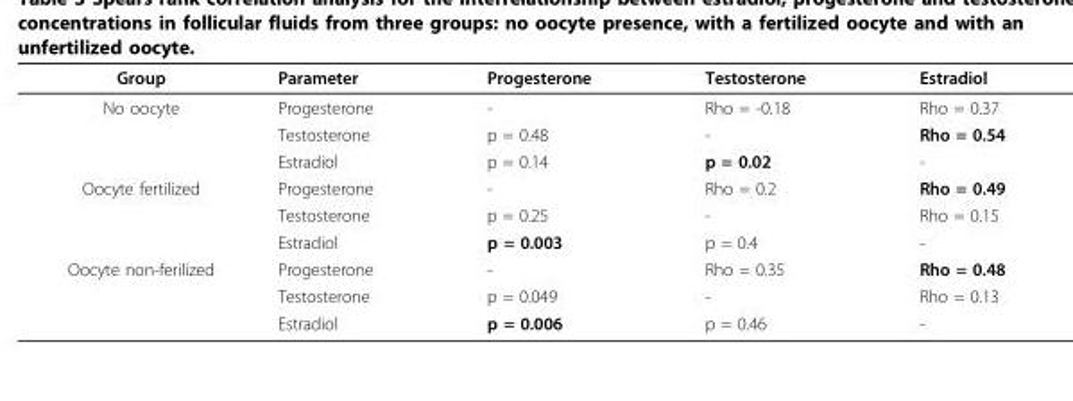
<table><thead><tr><td>Group</td><td>Parameter</td><td>Progesterone</td><td>Testosterone</td><td>Estradiol</td></tr></thead><tbody><tr><td rowspan="3">No oocyte</td><td>Progesterone</td><td>-</td><td>Rho = -0.18</td><td>Rho = 0.37</td></tr><tr><td>Testosterone</td><td>p = 0.48</td><td>-</td><td>Rho = 0.54</td></tr><tr><td>Estradiol</td><td>p = 0.14</td><td>p = 0.02</td><td>-</td></tr><tr><td rowspan="3">Oocyte fertilized</td><td>Progesterone</td><td>-</td><td>Rho = 0.2</td><td>Rho = 0.49</td></tr><tr><td>Testosterone</td><td>p = 0.25</td><td>-</td><td>Rho = 0.15</td></tr><tr><td>Estradiol</td><td>p = 0.003</td><td>p = 0.4</td><td>-</td></tr><tr><td rowspan="3">Oocyte non-ferilized</td><td>Progesterone</td><td>-</td><td>Rho = 0.35</td><td>Rho = 0.48</td></tr><tr><td>Testosterone</td><td>p = 0.049</td><td>-</td><td>Rho = 0.13</td></tr><tr><td>Estradiol</td><td>p = 0.006</td><td>p = 0.46</td><td>-</td></tr></tbody></table>